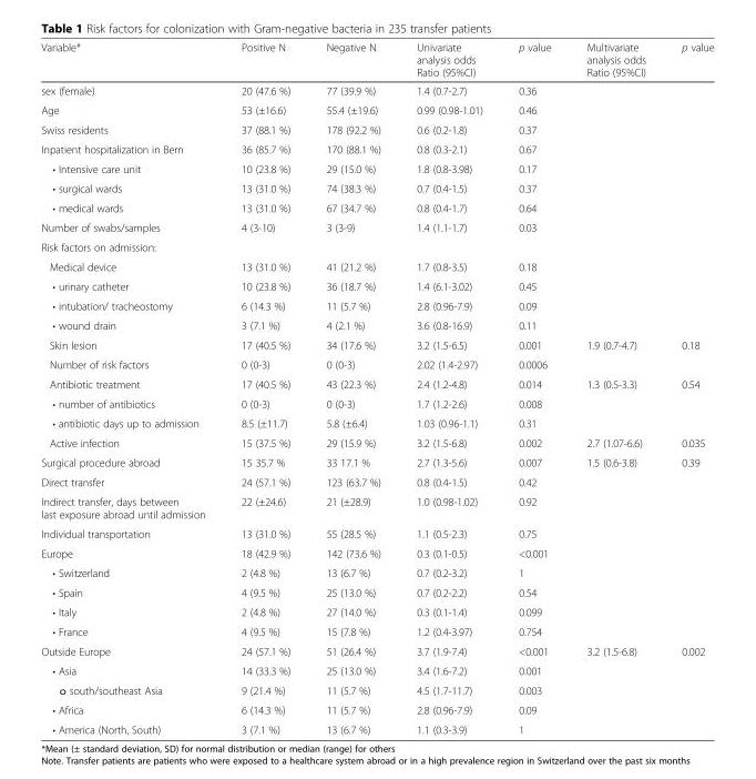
<table><thead><tr><td>Variable*</td><td>Positive N</td><td>Negative N</td><td>Univariate analysis odds Ratio (95%CI)</td><td>p value</td><td>Multivariate analysis odds Ratio (95%CI)</td><td>p value</td></tr></thead><tbody><tr><td>sex (female)</td><td>20 (47.6 %)</td><td>77 (39.9 %)</td><td>1.4 (0.7-2.7)</td><td>0.36</td><td></td><td></td></tr><tr><td>Age</td><td>53 (±16.6)</td><td>55.4 (±19.6)</td><td>0.99 (0.98-1.01)</td><td>0.46</td><td></td><td></td></tr><tr><td>Swiss residents</td><td>37 (88.1 %)</td><td>178 (92.2 %)</td><td>0.6 (0.2-1.8)</td><td>0.37</td><td></td><td></td></tr><tr><td>Inpatient hospitalization in Bern</td><td>36 (85.7 %)</td><td>170 (88.1 %)</td><td>0.8 (0.3-2.1)</td><td>0.67</td><td></td><td></td></tr><tr><td>• Intensive care unit</td><td>10 (23.8 %)</td><td>29 (15.0 %)</td><td>1.8 (0.8-3.98)</td><td>0.17</td><td></td><td></td></tr><tr><td>• surgical wards</td><td>13 (31.0 %)</td><td>74 (38.3 %)</td><td>0.7 (0.4-1.5)</td><td>0.37</td><td></td><td></td></tr><tr><td>• medical wards</td><td>13 (31.0 %)</td><td>67 (34.7 %)</td><td>0.8 (0.4-1.7)</td><td>0.64</td><td></td><td></td></tr><tr><td>Number of swabs/samples</td><td>4 (3-10)</td><td>3 (3-9)</td><td>1.4 (1.1-1.7)</td><td>0.03</td><td></td><td></td></tr><tr><td colspan="7">Risk factors on admission:</td></tr><tr><td>Medical device</td><td>13 (31.0 %)</td><td>41 (21.2 %)</td><td>1.7 (0.8-3.5)</td><td>0.18</td><td></td><td></td></tr><tr><td>• urinary catheter</td><td>10 (23.8 %)</td><td>36 (18.7 %)</td><td>1.4 (6.1-3.02)</td><td>0.45</td><td></td><td></td></tr><tr><td>• intubation/ tracheostomy</td><td>6 (14.3 %)</td><td>11 (5.7 %)</td><td>2.8 (0.96-7.9)</td><td>0.09</td><td></td><td></td></tr><tr><td>• wound drain</td><td>3 (7.1 %)</td><td>4 (2.1 %)</td><td>3.6 (0.8-16.9)</td><td>0.11</td><td></td><td></td></tr><tr><td>Skin lesion</td><td>17 (40.5 %)</td><td>34 (17.6 %)</td><td>3.2 (1.5-6.5)</td><td>0.001</td><td>1.9 (0.7-4.7)</td><td>0.18</td></tr><tr><td>Number of risk factors</td><td>0 (0-3)</td><td>0 (0-3)</td><td>2.02 (1.4-2.97)</td><td>0.0006</td><td></td><td></td></tr><tr><td>Antibiotic treatment</td><td>17 (40.5 %)</td><td>43 (22.3 %)</td><td>2.4 (1.2-4.8)</td><td>0.014</td><td>1.3 (0.5-3.3)</td><td>0.54</td></tr><tr><td>• number of antibiotics</td><td>0 (0-3)</td><td>0 (0-3)</td><td>1.7 (1.2-2.6)</td><td>0.008</td><td></td><td></td></tr><tr><td>• antibiotic days up to admission</td><td>8.5 (±11.7)</td><td>5.8 (±6.4)</td><td>1.03 (0.96-1.1)</td><td>0.31</td><td></td><td></td></tr><tr><td>Active infection</td><td>15 (37.5 %)</td><td>29 (15.9 %)</td><td>3.2 (1.5-6.8)</td><td>0.002</td><td>2.7 (1.07-6.6)</td><td>0.035</td></tr><tr><td>Surgical procedure abroad</td><td>15 35.7 %</td><td>33 17.1 %</td><td>2.7 (1.3-5.6)</td><td>0.007</td><td>1.5 (0.6-3.8)</td><td>0.39</td></tr><tr><td>Direct transfer</td><td>24 (57.1 %)</td><td>123 (63.7 %)</td><td>0.8 (0.4-1.5)</td><td>0.42</td><td></td><td></td></tr><tr><td>Indirect transfer, days between last exposure abroad until admission</td><td>22 (±24.6)</td><td>21 (±28.9)</td><td>1.0 (0.98-1.02)</td><td>0.92</td><td></td><td></td></tr><tr><td>Individual transportation</td><td>13 (31.0 %)</td><td>55 (28.5 %)</td><td>1.1 (0.5-2.3)</td><td>0.75</td><td></td><td></td></tr><tr><td>Europe</td><td>18 (42.9 %)</td><td>142 (73.6 %)</td><td>0.3 (0.1-0.5)</td><td>&lt;0.001</td><td></td><td></td></tr><tr><td>• Switzerland</td><td>2 (4.8 %)</td><td>13 (6.7 %)</td><td>0.7 (0.2-3.2)</td><td>1</td><td></td><td></td></tr><tr><td>• Spain</td><td>4 (9.5 %)</td><td>25 (13.0 %)</td><td>0.7 (0.2-2.2)</td><td>0.54</td><td></td><td></td></tr><tr><td>• Italy</td><td>2 (4.8 %)</td><td>27 (14.0 %)</td><td>0.3 (0.1-1.4)</td><td>0.099</td><td></td><td></td></tr><tr><td>• France</td><td>4 (9.5 %)</td><td>15 (7.8 %)</td><td>1.2 (0.4-3.97)</td><td>0.754</td><td></td><td></td></tr><tr><td>Outside Europe</td><td>24 (57.1 %)</td><td>51 (26.4 %)</td><td>3.7 (1.9-7.4)</td><td>&lt;0.001</td><td>3.2 (1.5-6.8)</td><td>0.002</td></tr><tr><td>• Asia</td><td>14 (33.3 %)</td><td>25 (13.0 %)</td><td>3.4 (1.6-7.2)</td><td>0.001</td><td></td><td></td></tr><tr><td>o south/southeast Asia</td><td>9 (21.4 %)</td><td>11 (5.7 %)</td><td>4.5 (1.7-11.7)</td><td>0.003</td><td></td><td></td></tr><tr><td>• Africa</td><td>6 (14.3 %)</td><td>11 (5.7 %)</td><td>2.8 (0.96-7.9)</td><td>0.09</td><td></td><td></td></tr><tr><td>• America (North, South)</td><td>3 (7.1 %)</td><td>13 (6.7 %)</td><td>1.1 (0.3-3.9)</td><td>1</td><td></td><td></td></tr></tbody></table>